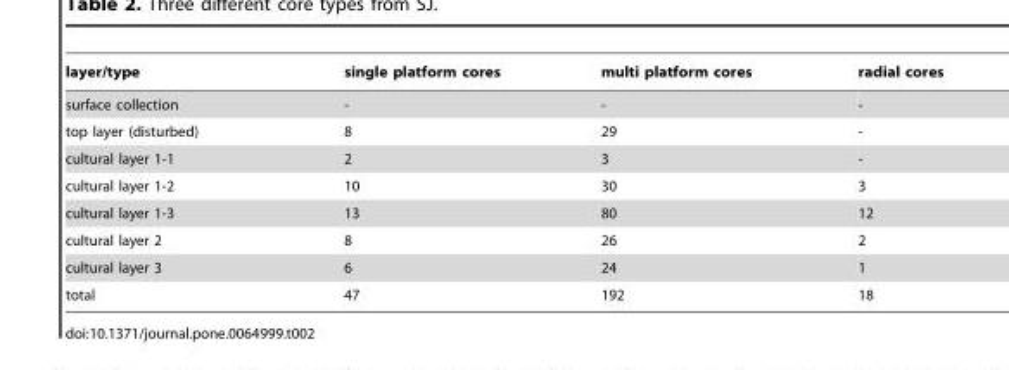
<table><thead><tr><td>layer/type</td><td>single platform cores</td><td>multi platform cores</td><td>radial cores</td></tr></thead><tbody><tr><td>surface collection</td><td>-</td><td>-</td><td>-</td></tr><tr><td>top layer (disturbed)</td><td>8</td><td>29</td><td>-</td></tr><tr><td>cultural layer 1-1</td><td>2</td><td>3</td><td>-</td></tr><tr><td>cultural layer 1-2</td><td>10</td><td>30</td><td>3</td></tr><tr><td>cultural layer 1-3</td><td>13</td><td>80</td><td>12</td></tr><tr><td>cultural layer 2</td><td>8</td><td>26</td><td>2</td></tr><tr><td>cultural layer 3</td><td>6</td><td>24</td><td>1</td></tr><tr><td>total</td><td>47</td><td>192</td><td>18</td></tr></tbody></table>